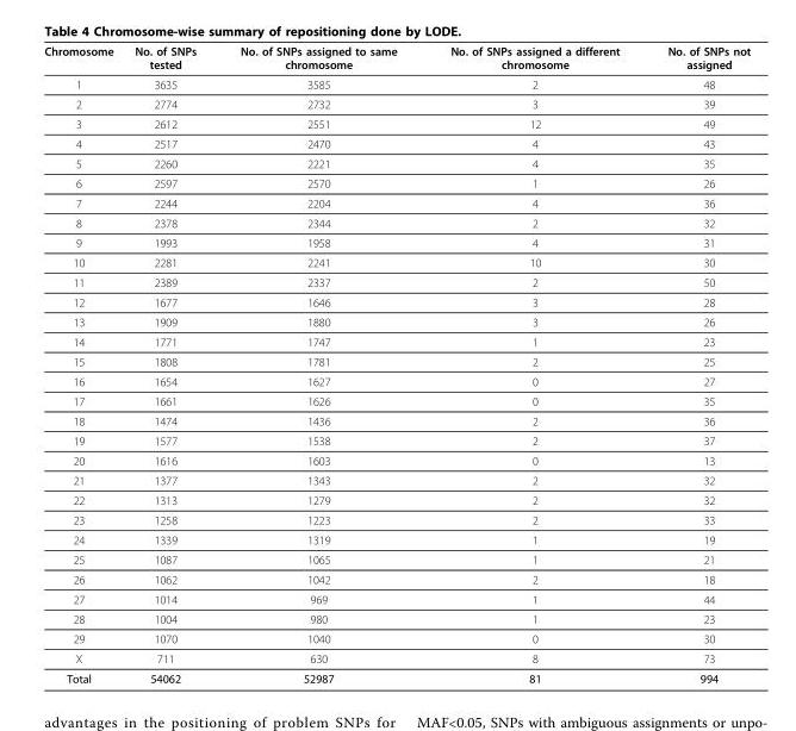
<table><thead><tr><td>Chromosome</td><td>No. of SNPs tested</td><td>No. of SNPs assigned to same chromosome</td><td>No. of SNPs assigned a different chromosome</td><td>No. of SNPs not assigned</td></tr></thead><tbody><tr><td>1</td><td>3635</td><td>3585</td><td>2</td><td>48</td></tr><tr><td>2</td><td>2774</td><td>2732</td><td>3</td><td>39</td></tr><tr><td>3</td><td>2612</td><td>2551</td><td>12</td><td>49</td></tr><tr><td>4</td><td>2517</td><td>2470</td><td>4</td><td>43</td></tr><tr><td>5</td><td>2260</td><td>2221</td><td>4</td><td>35</td></tr><tr><td>6</td><td>2597</td><td>2570</td><td>1</td><td>26</td></tr><tr><td>7</td><td>2244</td><td>2204</td><td>4</td><td>36</td></tr><tr><td>8</td><td>2378</td><td>2344</td><td>2</td><td>32</td></tr><tr><td>9</td><td>1993</td><td>1958</td><td>4</td><td>31</td></tr><tr><td>10</td><td>2281</td><td>2241</td><td>10</td><td>30</td></tr><tr><td>11</td><td>2389</td><td>2337</td><td>2</td><td>50</td></tr><tr><td>12</td><td>1677</td><td>1646</td><td>3</td><td>28</td></tr><tr><td>13</td><td>1909</td><td>1880</td><td>3</td><td>26</td></tr><tr><td>14</td><td>1771</td><td>1747</td><td>1</td><td>23</td></tr><tr><td>15</td><td>1808</td><td>1781</td><td>2</td><td>25</td></tr><tr><td>16</td><td>1654</td><td>1627</td><td>0</td><td>27</td></tr><tr><td>17</td><td>1661</td><td>1626</td><td>0</td><td>35</td></tr><tr><td>18</td><td>1474</td><td>1436</td><td>2</td><td>36</td></tr><tr><td>19</td><td>1577</td><td>1538</td><td>2</td><td>37</td></tr><tr><td>20</td><td>1616</td><td>1603</td><td>0</td><td>13</td></tr><tr><td>21</td><td>1377</td><td>1343</td><td>2</td><td>32</td></tr><tr><td>22</td><td>1313</td><td>1279</td><td>2</td><td>32</td></tr><tr><td>23</td><td>1258</td><td>1223</td><td>2</td><td>33</td></tr><tr><td>24</td><td>1339</td><td>1319</td><td>1</td><td>19</td></tr><tr><td>25</td><td>1087</td><td>1065</td><td>1</td><td>21</td></tr><tr><td>26</td><td>1062</td><td>1042</td><td>2</td><td>18</td></tr><tr><td>27</td><td>1014</td><td>969</td><td>1</td><td>44</td></tr><tr><td>28</td><td>1004</td><td>980</td><td>1</td><td>23</td></tr><tr><td>29</td><td>1070</td><td>1040</td><td>0</td><td>30</td></tr><tr><td>X</td><td>711</td><td>630</td><td>8</td><td>73</td></tr><tr><td>Total</td><td>54062</td><td>52987</td><td>81</td><td>994</td></tr></tbody></table>